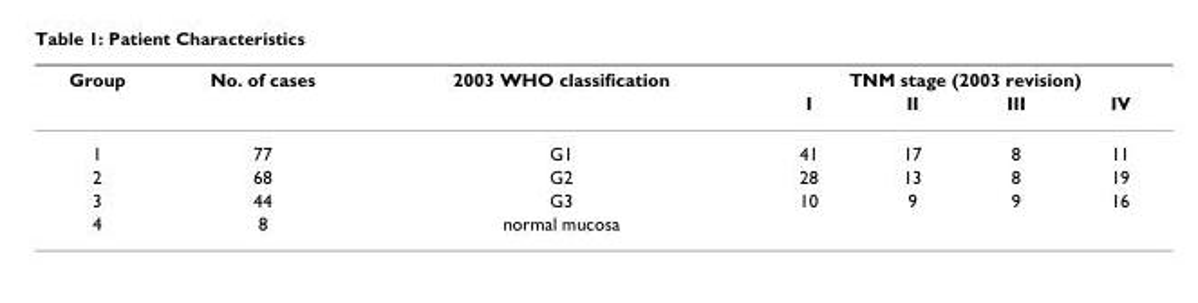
<table><thead><tr><td rowspan="2">Group</td><td rowspan="2">No. of cases</td><td rowspan="2">2003 WHO classification</td><td colspan="4">TNM stage (2003 revision)</td></tr><tr><td>I</td><td>II</td><td>III</td><td>IV</td></tr></thead><tbody><tr><td>1</td><td>77</td><td>G1</td><td>41</td><td>17</td><td>8</td><td>11</td></tr><tr><td>2</td><td>68</td><td>G2</td><td>28</td><td>13</td><td>8</td><td>19</td></tr><tr><td>3</td><td>44</td><td>G3</td><td>10</td><td>9</td><td>9</td><td>16</td></tr><tr><td>4</td><td>8</td><td>normal mucosa</td><td></td><td></td><td></td><td></td></tr></tbody></table>